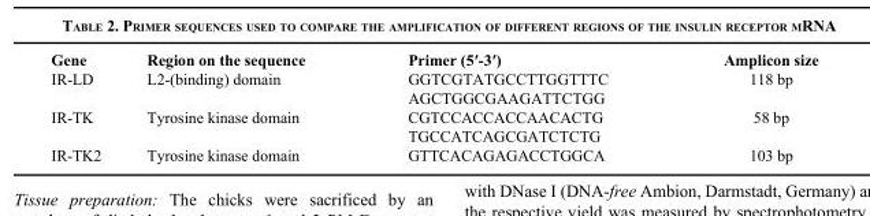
<table><thead><tr><td>Gene</td><td>Region on the sequence</td><td>Primer (5′-3′)</td><td>Amplicon size</td></tr></thead><tbody><tr><td rowspan="2">IR-LD</td><td>L2-(binding) domain</td><td>GGTCGTATGCCTTGGTTTC</td><td>118 bp</td></tr><tr><td></td><td>AGCTGGCGAAGATTCTGG</td><td></td></tr><tr><td rowspan="2">IR-TK</td><td>Tyrosine kinase domain</td><td>CGTCCACCACCAACACTG</td><td>58 bp</td></tr><tr><td></td><td>TGCCATCAGCGATCTCTG</td><td></td></tr><tr><td>IR-TK2</td><td>Tyrosine kinase domain</td><td>GTTCACAGAGACCTGGCA</td><td>103 bp</td></tr></tbody></table>